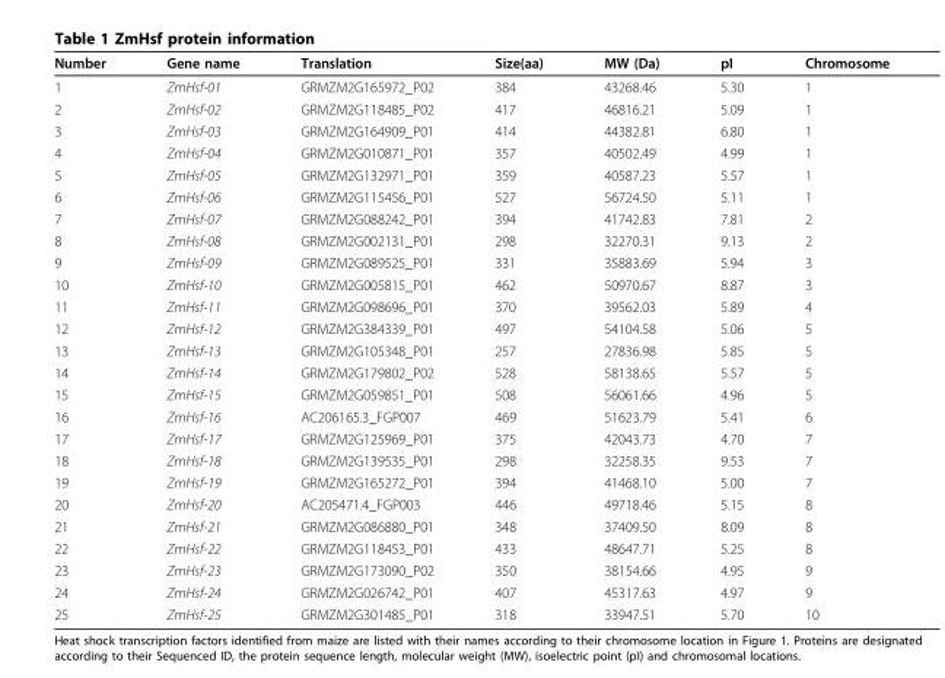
<table><thead><tr><td>Number</td><td>Gene name</td><td>Translation</td><td>Size(aa)</td><td>MW (Da)</td><td>pI</td><td>Chromosome</td></tr></thead><tbody><tr><td>1</td><td>ZmHsf-01</td><td>GRMZM2G165972_P02</td><td>384</td><td>43268.46</td><td>5.30</td><td>1</td></tr><tr><td>2</td><td>ZmHsf-02</td><td>GRMZM2G118485_P02</td><td>417</td><td>46816.21</td><td>5.09</td><td>1</td></tr><tr><td>3</td><td>ZmHsf-03</td><td>GRMZM2G164909_P01</td><td>414</td><td>44382.81</td><td>6.80</td><td>1</td></tr><tr><td>4</td><td>ZmHsf-04</td><td>GRMZM2G010871_P01</td><td>357</td><td>40502.49</td><td>4.99</td><td>1</td></tr><tr><td>5</td><td>ZmHsf-05</td><td>GRMZM2G132971_P01</td><td>359</td><td>40587.23</td><td>5.57</td><td>1</td></tr><tr><td>6</td><td>ZmHsf-06</td><td>GRMZM2G115456_P01</td><td>527</td><td>56724.50</td><td>5.11</td><td>1</td></tr><tr><td>7</td><td>ZmHsf-07</td><td>GRMZM2G088242_P01</td><td>394</td><td>41742.83</td><td>7.81</td><td>2</td></tr><tr><td>8</td><td>ZmHsf-08</td><td>GRMZM2G002131_P01</td><td>298</td><td>32270.31</td><td>9.13</td><td>2</td></tr><tr><td>9</td><td>ZmHsf-09</td><td>GRMZM2G089525_P01</td><td>331</td><td>35883.69</td><td>5.94</td><td>3</td></tr><tr><td>10</td><td>ZmHsf-10</td><td>GRMZM2G005815_P01</td><td>462</td><td>50970.67</td><td>8.87</td><td>3</td></tr><tr><td>11</td><td>ZmHsf-11</td><td>GRMZM2G098696_P01</td><td>370</td><td>39562.03</td><td>5.89</td><td>4</td></tr><tr><td>12</td><td>ZmHsf-12</td><td>GRMZM2G384339_P01</td><td>497</td><td>54104.58</td><td>5.06</td><td>5</td></tr><tr><td>13</td><td>ZmHsf-13</td><td>GRMZM2G105348_P01</td><td>257</td><td>27836.98</td><td>5.85</td><td>5</td></tr><tr><td>14</td><td>ZmHsf-14</td><td>GRMZM2G179802_P02</td><td>528</td><td>58138.65</td><td>5.57</td><td>5</td></tr><tr><td>15</td><td>ZmHsf-15</td><td>GRMZM2G059851_P01</td><td>508</td><td>56061.66</td><td>4.96</td><td>5</td></tr><tr><td>16</td><td>ZmHsf-16</td><td>AC206165.3_FGP007</td><td>469</td><td>51623.79</td><td>5.41</td><td>6</td></tr><tr><td>17</td><td>ZmHsf-17</td><td>GRMZM2G125969_P01</td><td>375</td><td>42043.73</td><td>4.70</td><td>7</td></tr><tr><td>18</td><td>ZmHsf-18</td><td>GRMZM2G139535_P01</td><td>298</td><td>32258.35</td><td>9.53</td><td>7</td></tr><tr><td>19</td><td>ZmHsf-19</td><td>GRMZM2G165272_P01</td><td>394</td><td>41468.10</td><td>5.00</td><td>7</td></tr><tr><td>20</td><td>ZmHsf-20</td><td>AC205471.4_FGP003</td><td>446</td><td>49718.46</td><td>5.15</td><td>8</td></tr><tr><td>21</td><td>ZmHsf-21</td><td>GRMZM2G086880_P01</td><td>348</td><td>37409.50</td><td>8.09</td><td>8</td></tr><tr><td>22</td><td>ZmHsf-22</td><td>GRMZM2G118453_P01</td><td>433</td><td>48647.71</td><td>5.25</td><td>8</td></tr><tr><td>23</td><td>ZmHsf-23</td><td>GRMZM2G173090_P02</td><td>350</td><td>38154.66</td><td>4.95</td><td>9</td></tr><tr><td>24</td><td>ZmHsf-24</td><td>GRMZM2G026742_P01</td><td>407</td><td>45317.63</td><td>4.97</td><td>9</td></tr><tr><td>25</td><td>ZmHsf-25</td><td>GRMZM2G301485_P01</td><td>318</td><td>33947.51</td><td>5.70</td><td>10</td></tr></tbody></table>